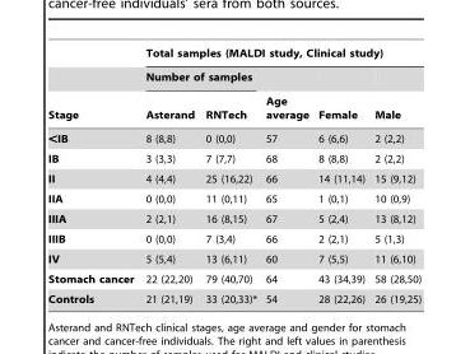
<table><thead><tr><td rowspan="3">Stage</td><td colspan="5">Total samples (MALDI study, Clinical study)</td></tr><tr><td colspan="2">Number of samples</td><td rowspan="2">Age average</td><td rowspan="2">Female</td><td rowspan="2">Male</td></tr><tr><td>Asterand</td><td>RNTech</td></tr></thead><tbody><tr><td>&lt;IB</td><td>8 (8,8)</td><td>0 (0,0)</td><td>57</td><td>6 (6,6)</td><td>2 (2,2)</td></tr><tr><td>IB</td><td>3 (3,3)</td><td>7 (7,7)</td><td>68</td><td>8 (8,8)</td><td>2 (2,2)</td></tr><tr><td>II</td><td>4 (4,4)</td><td>25 (16,22)</td><td>66</td><td>14 (11,14)</td><td>15 (9,12)</td></tr><tr><td>IIA</td><td>0 (0,0)</td><td>11 (0,11)</td><td>65</td><td>1 (0,1)</td><td>10 (0,9)</td></tr><tr><td>IIIA</td><td>2 (2,1)</td><td>16 (8,15)</td><td>67</td><td>5 (2,4)</td><td>13 (8,12)</td></tr><tr><td>IIIB</td><td>0 (0,0)</td><td>7 (3,4)</td><td>66</td><td>2 (2,1)</td><td>5 (1,3)</td></tr><tr><td>IV</td><td>5 (5,4)</td><td>13 (6,11)</td><td>60</td><td>7 (5,5)</td><td>11 (6,10)</td></tr><tr><td>Stomach cancer</td><td>22 (22,20)</td><td>79 (40,70)</td><td>64</td><td>43 (34,39)</td><td>58 (28,50)</td></tr><tr><td>Controls</td><td>21 (21,19)</td><td>33 (20,33)*</td><td>54</td><td>28 (22,26)</td><td>26 (19,25)</td></tr></tbody></table>